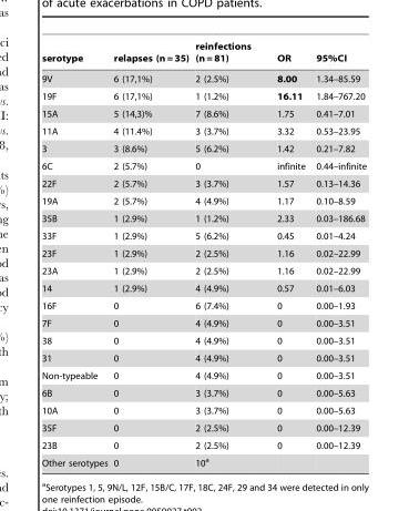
<table><thead><tr><td>serotype</td><td>relapses (n = 35)</td><td>reinfections (n = 81)</td><td>OR</td><td>95%CI</td></tr></thead><tbody><tr><td>9V</td><td>6 (17,1%)</td><td>2 (2.5%)</td><td>8.00</td><td>1.34–85.59</td></tr><tr><td>19F</td><td>6 (17,1%)</td><td>1 (1.2%)</td><td>16.11</td><td>1.84–767.20</td></tr><tr><td>15A</td><td>5 (14,3)%</td><td>7 (8.6%)</td><td>1.75</td><td>0.41–7.01</td></tr><tr><td>11A</td><td>4 (11.4%)</td><td>3 (3.7%)</td><td>3.32</td><td>0.53–23.95</td></tr><tr><td>3</td><td>3 (8.6%)</td><td>5 (6.2%)</td><td>1.42</td><td>0.21–7.82</td></tr><tr><td>6C</td><td>2 (5.7%)</td><td>0</td><td>infinite</td><td>0.44–infinite</td></tr><tr><td>22F</td><td>2 (5.7%)</td><td>3 (3.7%)</td><td>1.57</td><td>0.13–14.36</td></tr><tr><td>19A</td><td>2 (5.7%)</td><td>4 (4.9%)</td><td>1.17</td><td>0.10–8.59</td></tr><tr><td>35B</td><td>1 (2.9%)</td><td>1 (1.2%)</td><td>2.33</td><td>0.03–186.68</td></tr><tr><td>33F</td><td>1 (2.9%)</td><td>5 (6.2%)</td><td>0.45</td><td>0.01–4.24</td></tr><tr><td>23F</td><td>1 (2.9%)</td><td>2 (2.5%)</td><td>1.16</td><td>0.02–22.99</td></tr><tr><td>23A</td><td>1 (2.9%)</td><td>2 (2.5%)</td><td>1.16</td><td>0.02–22.99</td></tr><tr><td>14</td><td>1 (2.9%)</td><td>4 (4.9%)</td><td>0.57</td><td>0.01–6.03</td></tr><tr><td>16F</td><td>0</td><td>6 (7.4%)</td><td>0</td><td>0.00–1.93</td></tr><tr><td>7F</td><td>0</td><td>4 (4.9%)</td><td>0</td><td>0.00–3.51</td></tr><tr><td>38</td><td>0</td><td>4 (4.9%)</td><td>0</td><td>0.00–3.51</td></tr><tr><td>31</td><td>0</td><td>4 (4.9%)</td><td>0</td><td>0.00–3.51</td></tr><tr><td>Non-typeable</td><td>0</td><td>4 (4.9%)</td><td>0</td><td>0.00–3.51</td></tr><tr><td>6B</td><td>0</td><td>3 (3.7%)</td><td>0</td><td>0.00–5.63</td></tr><tr><td>10A</td><td>0</td><td>3 (3.7%)</td><td>0</td><td>0.00–5.63</td></tr><tr><td>35F</td><td>0</td><td>2 (2.5%)</td><td>0</td><td>0.00–12.39</td></tr><tr><td>23B</td><td>0</td><td>2 (2.5%)</td><td>0</td><td>0.00–12.39</td></tr><tr><td>Other serotypes</td><td>0</td><td>10<sup>a</sup></td><td></td><td></td></tr></tbody></table>